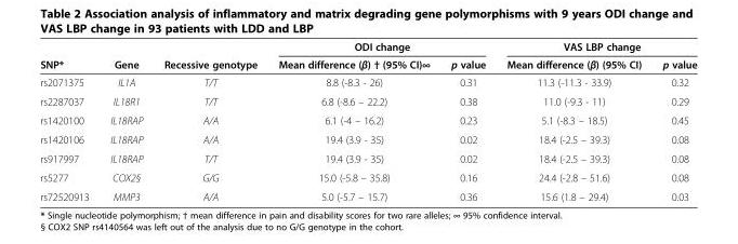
<table><thead><tr><td rowspan="2">SNP*</td><td rowspan="2">Gene</td><td rowspan="2">Recessive genotype</td><td colspan="2">ODI change</td><td colspan="2">VAS LBP change</td></tr><tr><td>Mean difference (β) † (95% CI)∞</td><td>p value</td><td>Mean difference (β) (95% CI)</td><td>p value</td></tr></thead><tbody><tr><td>rs2071375</td><td>IL1A</td><td>T/T</td><td>8.8 (-8.3 - 26)</td><td>0.31</td><td>11.3 (-11.3 - 33.9)</td><td>0.32</td></tr><tr><td>rs2287037</td><td>IL18R1</td><td>T/T</td><td>6.8 (-8.6 – 22.2)</td><td>0.38</td><td>11.0 (-9.3 - 11)</td><td>0.29</td></tr><tr><td>rs1420100</td><td>IL18RAP</td><td>A/A</td><td>6.1 (-4 – 16.2)</td><td>0.23</td><td>5.1 (-8.3 – 18.5)</td><td>0.45</td></tr><tr><td>rs1420106</td><td>IL18RAP</td><td>A/A</td><td>19.4 (3.9 - 35)</td><td>0.02</td><td>18.4 (-2.5 – 39.3)</td><td>0.08</td></tr><tr><td>rs917997</td><td>IL18RAP</td><td>T/T</td><td>19.4 (3.9 - 35)</td><td>0.02</td><td>18.4 (-2.5 – 39.3)</td><td>0.08</td></tr><tr><td>rs5277</td><td>COX2§</td><td>G/G</td><td>15.0 (-5.8 – 35.8)</td><td>0.16</td><td>24.4 (-2.8 – 51.6)</td><td>0.08</td></tr><tr><td>rs72520913</td><td>MMP3</td><td>A/A</td><td>5.0 (-5.7 – 15.7)</td><td>0.36</td><td>15.6 (1.8 – 29.4)</td><td>0.03</td></tr></tbody></table>